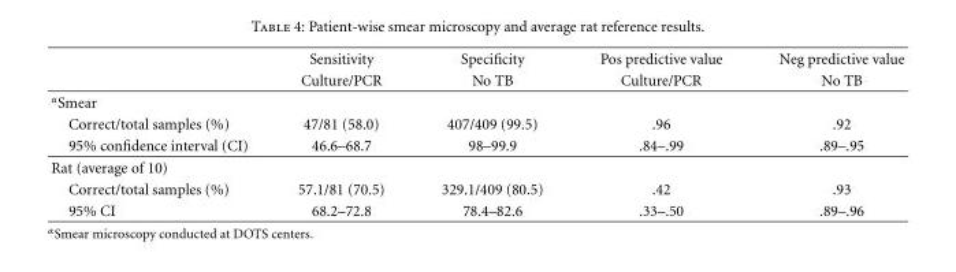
<table><thead><tr><td rowspan="2"></td><td rowspan="2">Sensitivity Culture/PCR</td><td rowspan="2">Specificity No TB</td><td rowspan="2">Pos predictive value Culture/PCR</td><td rowspan="2">Neg predictive value No TB</td></tr><tr></tr></thead><tbody><tr><td colspan="5"><sup>α</sup>Smear</td></tr><tr><td>Correct/total samples (%)</td><td>47/81 (58.0)</td><td>407/409 (99.5)</td><td>.96</td><td>.92</td></tr><tr><td>95% confidence interval (CI)</td><td>46.6–68.7</td><td>98–99.9</td><td>.84–.99</td><td>.89–.95</td></tr><tr><td colspan="5">Rat (average of 10)</td></tr><tr><td>Correct/total samples (%)</td><td>57.1/81 (70.5)</td><td>329.1/409 (80.5)</td><td>.42</td><td>.93</td></tr><tr><td>95% CI</td><td>68.2–72.8</td><td>78.4–82.6</td><td>.33–.50</td><td>.89–.96</td></tr></tbody></table>